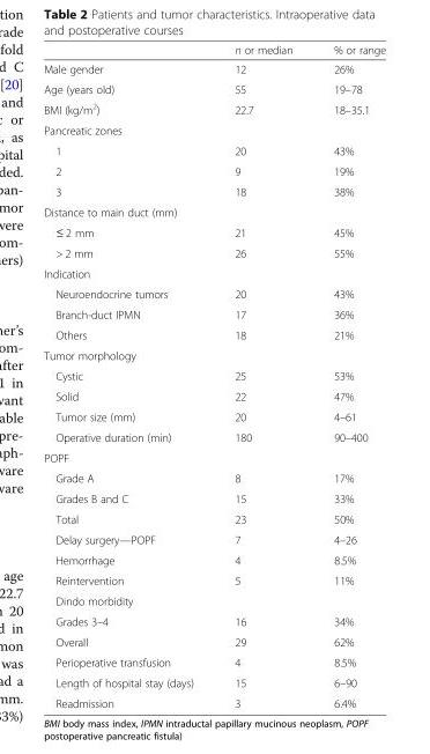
<table><thead><tr><td></td><td>n or median</td><td>% or range</td></tr></thead><tbody><tr><td>Male gender</td><td>12</td><td>26%</td></tr><tr><td>Age (years old)</td><td>55</td><td>19–78</td></tr><tr><td>BMI (kg/m<sup>2</sup>)</td><td>22.7</td><td>18–35.1</td></tr><tr><td colspan="3">Pancreatic zones</td></tr><tr><td>1</td><td>20</td><td>43%</td></tr><tr><td>2</td><td>9</td><td>19%</td></tr><tr><td>3</td><td>18</td><td>38%</td></tr><tr><td colspan="3">Distance to main duct (mm)</td></tr><tr><td>≤ 2 mm</td><td>21</td><td>45%</td></tr><tr><td>&gt; 2 mm</td><td>26</td><td>55%</td></tr><tr><td colspan="3">Indication</td></tr><tr><td>Neuroendocrine tumors</td><td>20</td><td>43%</td></tr><tr><td>Branch-duct IPMN</td><td>17</td><td>36%</td></tr><tr><td>Others</td><td>18</td><td>21%</td></tr><tr><td colspan="3">Tumor morphology</td></tr><tr><td>Cystic</td><td>25</td><td>53%</td></tr><tr><td>Solid</td><td>22</td><td>47%</td></tr><tr><td>Tumor size (mm)</td><td>20</td><td>4–61</td></tr><tr><td>Operative duration (min)</td><td>180</td><td>90–400</td></tr><tr><td colspan="3">POPF</td></tr><tr><td>Grade A</td><td>8</td><td>17%</td></tr><tr><td>Grades B and C</td><td>15</td><td>33%</td></tr><tr><td>Total</td><td>23</td><td>50%</td></tr><tr><td>Delay surgery—POPF</td><td>7</td><td>4–26</td></tr><tr><td>Hemorrhage</td><td>4</td><td>8.5%</td></tr><tr><td>Reintervention</td><td>5</td><td>11%</td></tr><tr><td colspan="3">Dindo morbidity</td></tr><tr><td>Grades 3–4</td><td>16</td><td>34%</td></tr><tr><td>Overall</td><td>29</td><td>62%</td></tr><tr><td>Perioperative transfusion</td><td>4</td><td>8.5%</td></tr><tr><td>Length of hospital stay (days)</td><td>15</td><td>6–90</td></tr><tr><td>Readmission</td><td>3</td><td>6.4%</td></tr></tbody></table>